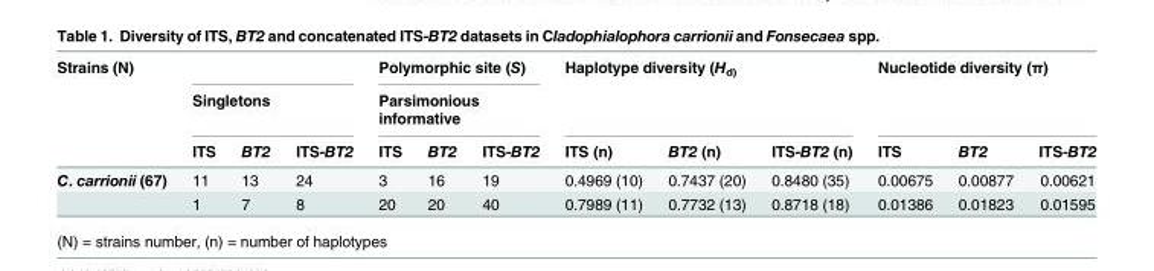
<table><thead><tr><td rowspan="3">Strains (N)</td><td></td><td></td><td></td><td rowspan="2" colspan="3">Polymorphic site (S) Parsimonious informative</td><td rowspan="2" colspan="3">Haplotype diversity (H<sub>d)</sub></td><td rowspan="2" colspan="3">Nucleotide diversity (π)</td></tr><tr><td colspan="3">Singletons</td></tr><tr><td>ITS</td><td>BT2</td><td>ITS-BT2</td><td>ITS</td><td>BT2</td><td>ITS-BT2</td><td>ITS (n)</td><td>BT2 (n)</td><td>ITS-BT2 (n)</td><td>ITS</td><td>BT2</td><td>ITS-BT2</td></tr></thead><tbody><tr><td rowspan="2">C. carrionii (67)</td><td>11</td><td>13</td><td>24</td><td>3</td><td>16</td><td>19</td><td>0.4969 (10)</td><td>0.7437 (20)</td><td>0.8480 (35)</td><td>0.00675</td><td>0.00877</td><td>0.00621</td></tr><tr><td>1</td><td>7</td><td>8</td><td>20</td><td>20</td><td>40</td><td>0.7989 (11)</td><td>0.7732 (13)</td><td>0.8718 (18)</td><td>0.01386</td><td>0.01823</td><td>0.01595</td></tr></tbody></table>